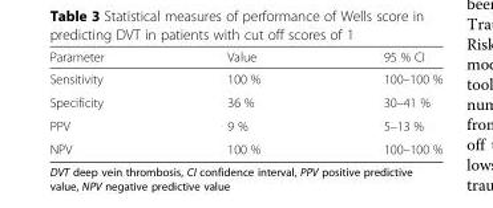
<table><thead><tr><td>Parameter</td><td>Value</td><td>95 % CI</td></tr></thead><tbody><tr><td>Sensitivity</td><td>100 %</td><td>100–100 %</td></tr><tr><td>Specificity</td><td>36 %</td><td>30–41 %</td></tr><tr><td>PPV</td><td>9 %</td><td>5–13 %</td></tr><tr><td>NPV</td><td>100 %</td><td>100–100 %</td></tr></tbody></table>